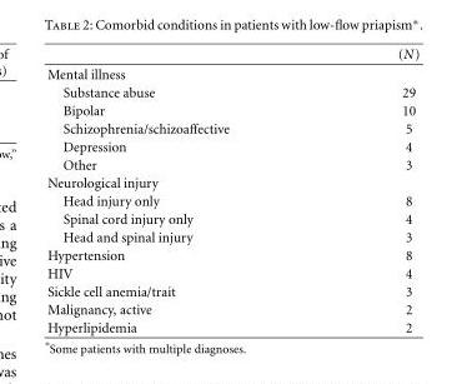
<table><thead><tr><td></td><td>(N)</td></tr></thead><tbody><tr><td colspan="2">Mental illness</td></tr><tr><td>Substance abuse</td><td>29</td></tr><tr><td>Bipolar</td><td>10</td></tr><tr><td>Schizophrenia/schizoaffective</td><td>5</td></tr><tr><td>Depression</td><td>4</td></tr><tr><td>Other</td><td>3</td></tr><tr><td colspan="2">Neurological injury</td></tr><tr><td>Head injury only</td><td>8</td></tr><tr><td>Spinal cord injury only</td><td>4</td></tr><tr><td>Head and spinal injury</td><td>3</td></tr><tr><td>Hypertension</td><td>8</td></tr><tr><td>HIV</td><td>4</td></tr><tr><td>Sickle cell anemia/trait</td><td>3</td></tr><tr><td>Malignancy, active</td><td>2</td></tr><tr><td>Hyperlipidemia</td><td>2</td></tr></tbody></table>